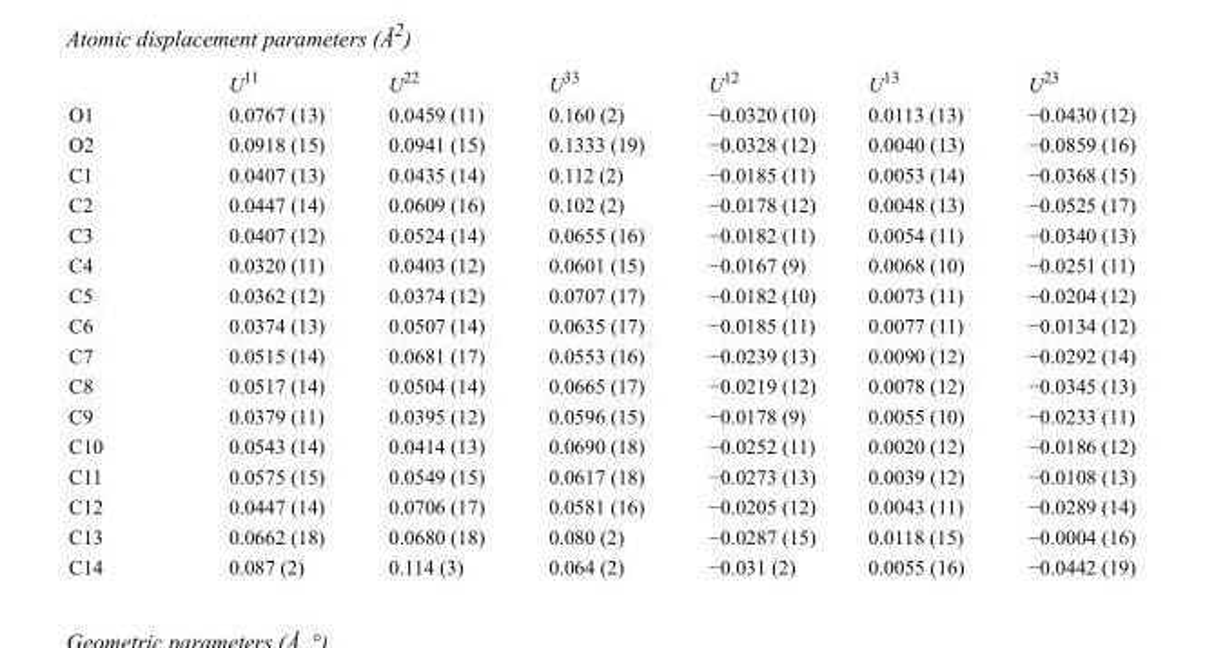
<table><thead><tr><td></td><td>U<sup>11</sup></td><td>U<sup>22</sup></td><td>U<sup>33</sup></td><td>U<sup>12</sup></td><td>U<sup>13</sup></td><td>U<sup>23</sup></td></tr></thead><tbody><tr><td>O1</td><td>0.0767 (13)</td><td>0.0459 (11)</td><td>0.160 (2)</td><td>−0.0320 (10)</td><td>0.0113 (13)</td><td>−0.0430 (12)</td></tr><tr><td>O2</td><td>0.0918 (15)</td><td>0.0941 (15)</td><td>0.1333 (19)</td><td>−0.0328 (12)</td><td>0.0040 (13)</td><td>−0.0859 (16)</td></tr><tr><td>C1</td><td>0.0407 (13)</td><td>0.0435 (14)</td><td>0.112 (2)</td><td>−0.0185 (11)</td><td>0.0053 (14)</td><td>−0.0368 (15)</td></tr><tr><td>C2</td><td>0.0447 (14)</td><td>0.0609 (16)</td><td>0.102 (2)</td><td>−0.0178 (12)</td><td>0.0048 (13)</td><td>−0.0525 (17)</td></tr><tr><td>C3</td><td>0.0407 (12)</td><td>0.0524 (14)</td><td>0.0655 (16)</td><td>−0.0182 (11)</td><td>0.0054 (11)</td><td>−0.0340 (13)</td></tr><tr><td>C4</td><td>0.0320 (11)</td><td>0.0403 (12)</td><td>0.0601 (15)</td><td>−0.0167 (9)</td><td>0.0068 (10)</td><td>−0.0251 (11)</td></tr><tr><td>C5</td><td>0.0362 (12)</td><td>0.0374 (12)</td><td>0.0707 (17)</td><td>−0.0182 (10)</td><td>0.0073 (11)</td><td>−0.0204 (12)</td></tr><tr><td>C6</td><td>0.0374 (13)</td><td>0.0507 (14)</td><td>0.0635 (17)</td><td>−0.0185 (11)</td><td>0.0077 (11)</td><td>−0.0134 (12)</td></tr><tr><td>C7</td><td>0.0515 (14)</td><td>0.0681 (17)</td><td>0.0553 (16)</td><td>−0.0239 (13)</td><td>0.0090 (12)</td><td>−0.0292 (14)</td></tr><tr><td>C8</td><td>0.0517 (14)</td><td>0.0504 (14)</td><td>0.0665 (17)</td><td>−0.0219 (12)</td><td>0.0078 (12)</td><td>−0.0345 (13)</td></tr><tr><td>C9</td><td>0.0379 (11)</td><td>0.0395 (12)</td><td>0.0596 (15)</td><td>−0.0178 (9)</td><td>0.0055 (10)</td><td>−0.0233 (11)</td></tr><tr><td>C10</td><td>0.0543 (14)</td><td>0.0414 (13)</td><td>0.0690 (18)</td><td>−0.0252 (11)</td><td>0.0020 (12)</td><td>−0.0186 (12)</td></tr><tr><td>C11</td><td>0.0575 (15)</td><td>0.0549 (15)</td><td>0.0617 (18)</td><td>−0.0273 (13)</td><td>0.0039 (12)</td><td>−0.0108 (13)</td></tr><tr><td>C12</td><td>0.0447 (14)</td><td>0.0706 (17)</td><td>0.0581 (16)</td><td>−0.0205 (12)</td><td>0.0043 (11)</td><td>−0.0289 (14)</td></tr><tr><td>C13</td><td>0.0662 (18)</td><td>0.0680 (18)</td><td>0.080 (2)</td><td>−0.0287 (15)</td><td>0.0118 (15)</td><td>−0.0004 (16)</td></tr><tr><td>C14</td><td>0.087 (2)</td><td>0.114 (3)</td><td>0.064 (2)</td><td>−0.031 (2)</td><td>0.0055 (16)</td><td>−0.0442 (19)</td></tr></tbody></table>